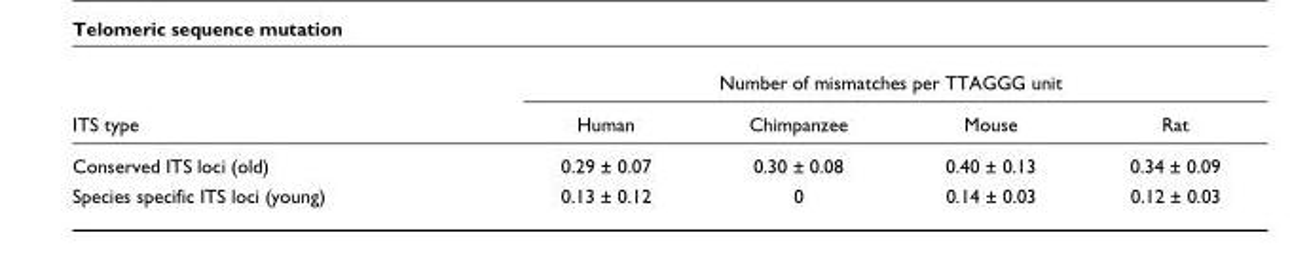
<table><thead><tr><td rowspan="2">ITS type</td><td colspan="4">Number of mismatches per TTAGGG unit</td></tr><tr><td>Human</td><td>Chimpanzee</td><td>Mouse</td><td>Rat</td></tr></thead><tbody><tr><td>Conserved ITS loci (old)</td><td>0.29 ± 0.07</td><td>0.30 ± 0.08</td><td>0.40 ± 0.13</td><td>0.34 ± 0.09</td></tr><tr><td>Species specific ITS loci (young)</td><td>0.13 ± 0.12</td><td>0</td><td>0.14 ± 0.03</td><td>0.12 ± 0.03</td></tr></tbody></table>